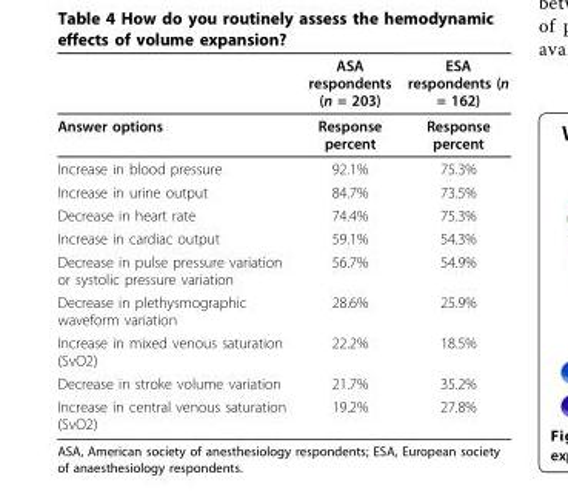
<table><thead><tr><td></td><td>ASA respondents (n = 203)</td><td>ESA respondents (n = 162)</td></tr></thead><tbody><tr><td>Answer options</td><td>Response percent</td><td>Response percent</td></tr><tr><td>Increase in blood pressure</td><td>92.1%</td><td>75.3%</td></tr><tr><td>Increase in urine output</td><td>84.7%</td><td>73.5%</td></tr><tr><td>Decrease in heart rate</td><td>74.4%</td><td>75.3%</td></tr><tr><td>Increase in cardiac output</td><td>59.1%</td><td>54.3%</td></tr><tr><td>Decrease in pulse pressure variation or systolic pressure variation</td><td>56.7%</td><td>54.9%</td></tr><tr><td>Decrease in plethysmographic waveform variation</td><td>28.6%</td><td>25.9%</td></tr><tr><td>Increase in mixed venous saturation (SvO2)</td><td>22.2%</td><td>18.5%</td></tr><tr><td>Decrease in stroke volume variation</td><td>21.7%</td><td>35.2%</td></tr><tr><td>Increase in central venous saturation (SvO2)</td><td>19.2%</td><td>27.8%</td></tr></tbody></table>